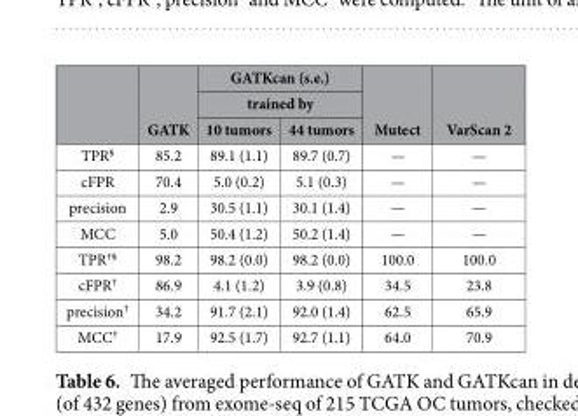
<table><thead><tr><td rowspan="3"></td><td rowspan="3">GATK</td><td rowspan="2" colspan="2">GATKcan (s.e.) trained by</td><td rowspan="3">Mutect</td><td rowspan="3">VarScan 2</td></tr><tr></tr><tr><td>10 tumors</td><td>44 tumors</td></tr></thead><tbody><tr><td>TPR<sup>§</sup></td><td>85.2</td><td>89.1 (1.1)</td><td>89.7 (0.7)</td><td>—</td><td>—</td></tr><tr><td>cFPR</td><td>70.4</td><td>5.0 (0.2)</td><td>5.1 (0.3)</td><td>—</td><td>—</td></tr><tr><td>precision</td><td>2.9</td><td>30.5 (1.1)</td><td>30.1 (1.4)</td><td>—</td><td>—</td></tr><tr><td>MCC</td><td>5.0</td><td>50.4 (1.2)</td><td>50.2 (1.4)</td><td>—</td><td>—</td></tr><tr><td>TPR<sup>†§</sup></td><td>98.2</td><td>98.2 (0.0)</td><td>98.2 (0.0)</td><td>100.0</td><td>100.0</td></tr><tr><td>cFPR<sup>†</sup></td><td>86.9</td><td>4.1 (1.2)</td><td>3.9 (0.8)</td><td>34.5</td><td>23.8</td></tr><tr><td>precision<sup>†</sup></td><td>34.2</td><td>91.7 (2.1)</td><td>92.0 (1.4)</td><td>62.5</td><td>65.9</td></tr><tr><td>MCC<sup>†</sup></td><td>17.9</td><td>92.5 (1.7)</td><td>92.7 (1.1)</td><td>64.0</td><td>70.9</td></tr></tbody></table>